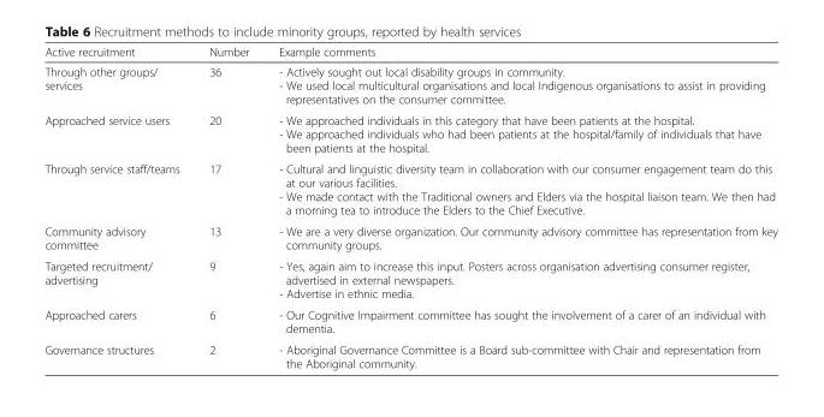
<table><thead><tr><td>Active recruitment</td><td>Number</td><td>Example comments</td></tr></thead><tbody><tr><td>Through other groups/ services</td><td>36</td><td>- Actively sought out local disability groups in community. - We used local multicultural organisations and local Indigenous organisations to assist in providing representatives on the consumer committee.</td></tr><tr><td>Approached service users</td><td>20</td><td>- We approached individuals in this category that have been patients at the hospital. - We approached individuals who had been patients at the hospital/family of individuals that have been patients at the hospital.</td></tr><tr><td>Through service staff/teams</td><td>17</td><td>- Cultural and linguistic diversity team in collaboration with our consumer engagement team do this at our various facilities. - We made contact with the Traditional owners and Elders via the hospital liaison team. We then had a morning tea to introduce the Elders to the Chief Executive.</td></tr><tr><td>Community advisory committee</td><td>13</td><td>- We are a very diverse organization. Our community advisory committee has representation from key community groups.</td></tr><tr><td>Targeted recruitment/ advertising</td><td>9</td><td>- Yes, again aim to increase this input. Posters across organisation advertising consumer register, advertised in external newspapers. - Advertise in ethnic media.</td></tr><tr><td>Approached carers</td><td>6</td><td>- Our Cognitive Impairment committee has sought the involvement of a carer of an individual with dementia.</td></tr><tr><td>Governance structures</td><td>2</td><td>- Aboriginal Governance Committee is a Board sub-committee with Chair and representation from the Aboriginal community.</td></tr></tbody></table>